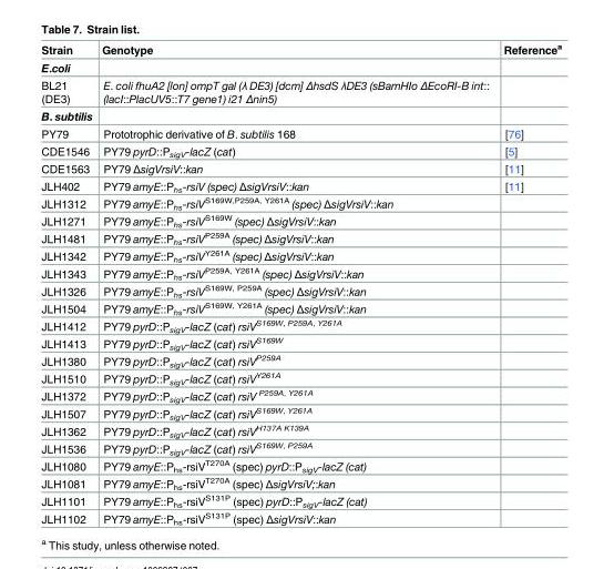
<table><thead><tr><td>Strain</td><td>Genotype</td><td>Reference<sup>a</sup></td></tr></thead><tbody><tr><td colspan="3">E.coli</td></tr><tr><td>BL21 (DE3)</td><td>E. coli fhuA2 [lon] ompT gal (λ DE3) [dcm] ΔhsdS λDE3 (sBamHIo ΔEcoRI-B int:: (lacI::PlacUV5::T7 gene1) i21 Δnin5)</td><td></td></tr><tr><td colspan="3">B. subtilis</td></tr><tr><td>PY79</td><td>Prototrophic derivative of B. subtilis 168</td><td>[76]</td></tr><tr><td>CDE1546</td><td>PY79 pyrD::P<sub>sigV</sub>-lacZ (cat)</td><td>[5]</td></tr><tr><td>CDE1563</td><td>PY79 ΔsigVrsiV::kan</td><td>[11]</td></tr><tr><td>JLH402</td><td>PY79 amyE::P<sub>hs</sub>-rsiV (spec) ΔsigVrsiV::kan</td><td>[11]</td></tr><tr><td>JLH1312</td><td>PY79 amyE::P<sub>hs</sub>-rsiV<sup>S169W,P259A, Y261A</sup> (spec) ΔsigVrsiV::kan</td><td></td></tr><tr><td>JLH1271</td><td>PY79 amyE::P<sub>hs</sub>-rsiV<sup>S169W</sup> (spec) ΔsigVrsiV::kan</td><td></td></tr><tr><td>JLH1481</td><td>PY79 amyE::P<sub>hs</sub>-rsiV<sup>P259A</sup> (spec) ΔsigVrsiV::kan</td><td></td></tr><tr><td>JLH1342</td><td>PY79 amyE::P<sub>hs</sub>-rsiV<sup>Y261A</sup> (spec) ΔsigVrsiV::kan</td><td></td></tr><tr><td>JLH1343</td><td>PY79 amyE::P<sub>hs</sub>-rsiV<sup>P259A, Y261A</sup> (spec) ΔsigVrsiV::kan</td><td></td></tr><tr><td>JLH1326</td><td>PY79 amyE::P<sub>hs</sub>-rsiV<sup>S169W, P259A</sup> (spec) ΔsigVrsiV::kan</td><td></td></tr><tr><td>JLH1504</td><td>PY79 amyE::P<sub>hs</sub>-rsiV<sup>S169W, Y261A</sup> (spec) ΔsigVrsiV::kan</td><td></td></tr><tr><td>JLH1412</td><td>PY79 pyrD::P<sub>sigV</sub>-lacZ (cat) rsiV<sup>S169W, P259A, Y261A</sup></td><td></td></tr><tr><td>JLH1413</td><td>PY79 pyrD::P<sub>sigV</sub>-lacZ (cat) rsiV<sup>S169W</sup></td><td></td></tr><tr><td>JLH1380</td><td>PY79 pyrD::P<sub>sigV</sub>-lacZ (cat) rsiV<sup>P259A</sup></td><td></td></tr><tr><td>JLH1510</td><td>PY79 pyrD::P<sub>sigV</sub>-lacZ (cat) rsiV<sup>Y261A</sup></td><td></td></tr><tr><td>JLH1372</td><td>PY79 pyrD::P<sub>sigV</sub>-lacZ (cat) rsiV <sup>P259A, Y261A</sup></td><td></td></tr><tr><td>JLH1507</td><td>PY79 pyrD::P<sub>sigV</sub>-lacZ (cat) rsiV<sup>S169W, Y261A</sup></td><td></td></tr><tr><td>JLH1362</td><td>PY79 pyrD::P<sub>sigV</sub>-lacZ (cat) rsiV<sup>H137A K139A</sup></td><td></td></tr><tr><td>JLH1536</td><td>PY79 pyrD::P<sub>sigV</sub>-lacZ (cat) rsiV<sup>S169W, P259A</sup></td><td></td></tr><tr><td>JLH1080</td><td>PY79 amyE::P<sub>hs</sub>-rsiV<sup>T270A</sup> (spec) pyrD::P<sub>sigV</sub>-lacZ (cat)</td><td></td></tr><tr><td>JLH1081</td><td>PY79 amyE::P<sub>hs</sub>-rsiV<sup>T270A</sup> (spec) ΔsigVrsiV;:kan</td><td></td></tr><tr><td>JLH1101</td><td>PY79 amyE::P<sub>hs</sub>-rsiV<sup>S131P</sup> (spec) pyrD::P<sub>sigV</sub>-lacZ (cat)</td><td></td></tr><tr><td>JLH1102</td><td>PY79 amyE::P<sub>hs</sub>-rsiV<sup>S131P</sup> (spec) ΔsigVrsiV::kan</td><td></td></tr></tbody></table>